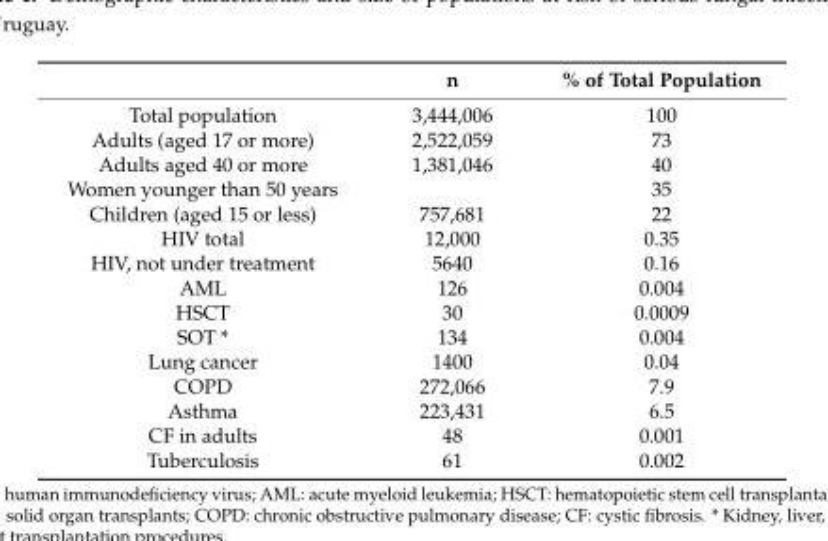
<table><thead><tr><td></td><td>n</td><td>% of Total Population</td></tr></thead><tbody><tr><td>Total population</td><td>3,444,006</td><td>100</td></tr><tr><td>Adults (aged 17 or more)</td><td>2,522,059</td><td>73</td></tr><tr><td>Adults aged 40 or more</td><td>1,381,046</td><td>40</td></tr><tr><td>Women younger than 50 years</td><td></td><td>35</td></tr><tr><td>Children (aged 15 or less)</td><td>757,681</td><td>22</td></tr><tr><td>HIV total</td><td>12,000</td><td>0.35</td></tr><tr><td>HIV, not under treatment</td><td>5640</td><td>0.16</td></tr><tr><td>AML</td><td>126</td><td>0.004</td></tr><tr><td>HSCT</td><td>30</td><td>0.0009</td></tr><tr><td>SOT *</td><td>134</td><td>0.004</td></tr><tr><td>Lung cancer</td><td>1400</td><td>0.04</td></tr><tr><td>COPD</td><td>272,066</td><td>7.9</td></tr><tr><td>Asthma</td><td>223,431</td><td>6.5</td></tr><tr><td>CF in adults</td><td>48</td><td>0.001</td></tr><tr><td>Tuberculosis</td><td>61</td><td>0.002</td></tr></tbody></table>